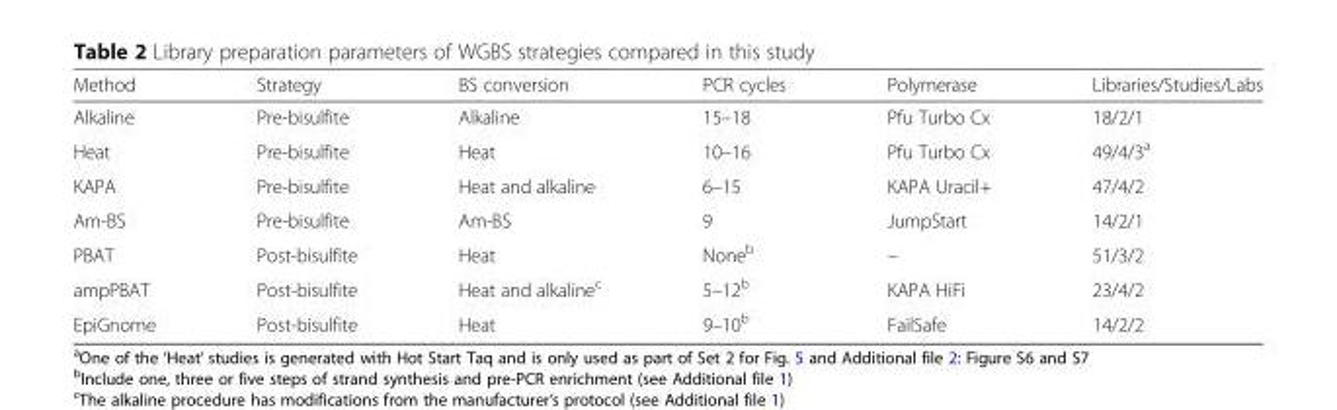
<table><thead><tr><td>Method</td><td>Strategy</td><td>BS conversion</td><td>PCR cycles</td><td>Polymerase</td><td>Libraries/Studies/Labs</td></tr></thead><tbody><tr><td>Alkaline</td><td>Pre-bisulfite</td><td>Alkaline</td><td>15–18</td><td>Pfu Turbo Cx</td><td>18/2/1</td></tr><tr><td>Heat</td><td>Pre-bisulfite</td><td>Heat</td><td>10–16</td><td>Pfu Turbo Cx</td><td>49/4/3<sup>a</sup></td></tr><tr><td>KAPA</td><td>Pre-bisulfite</td><td>Heat and alkaline</td><td>6–15</td><td>KAPA Uracil+</td><td>47/4/2</td></tr><tr><td>Am-BS</td><td>Pre-bisulfite</td><td>Am-BS</td><td>9</td><td>JumpStart</td><td>14/2/1</td></tr><tr><td>PBAT</td><td>Post-bisulfite</td><td>Heat</td><td>None<sup>b</sup></td><td>–</td><td>51/3/2</td></tr><tr><td>ampPBAT</td><td>Post-bisulfite</td><td>Heat and alkaline<sup>c</sup></td><td>5–12<sup>b</sup></td><td>KAPA HiFi</td><td>23/4/2</td></tr><tr><td>EpiGnome</td><td>Post-bisulfite</td><td>Heat</td><td>9–10<sup>b</sup></td><td>FailSafe</td><td>14/2/2</td></tr></tbody></table>